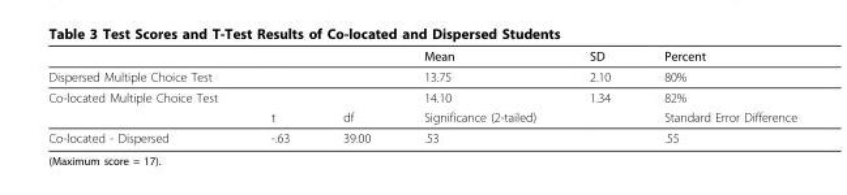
<table><thead><tr><td></td><td></td><td></td><td>Mean</td><td>SD</td><td>Percent</td></tr></thead><tbody><tr><td>Dispersed Multiple Choice Test</td><td></td><td></td><td>13.75</td><td>2.10</td><td>80%</td></tr><tr><td rowspan="2">Co-located Multiple Choice Test</td><td></td><td></td><td>14.10</td><td>1.34</td><td>82%</td></tr><tr><td>t</td><td>df</td><td>Significance (2-tailed)</td><td></td><td>Standard Error Difference</td></tr><tr><td>Co-located - Dispersed</td><td>-.63</td><td>39.00</td><td>.53</td><td></td><td>.55</td></tr></tbody></table>